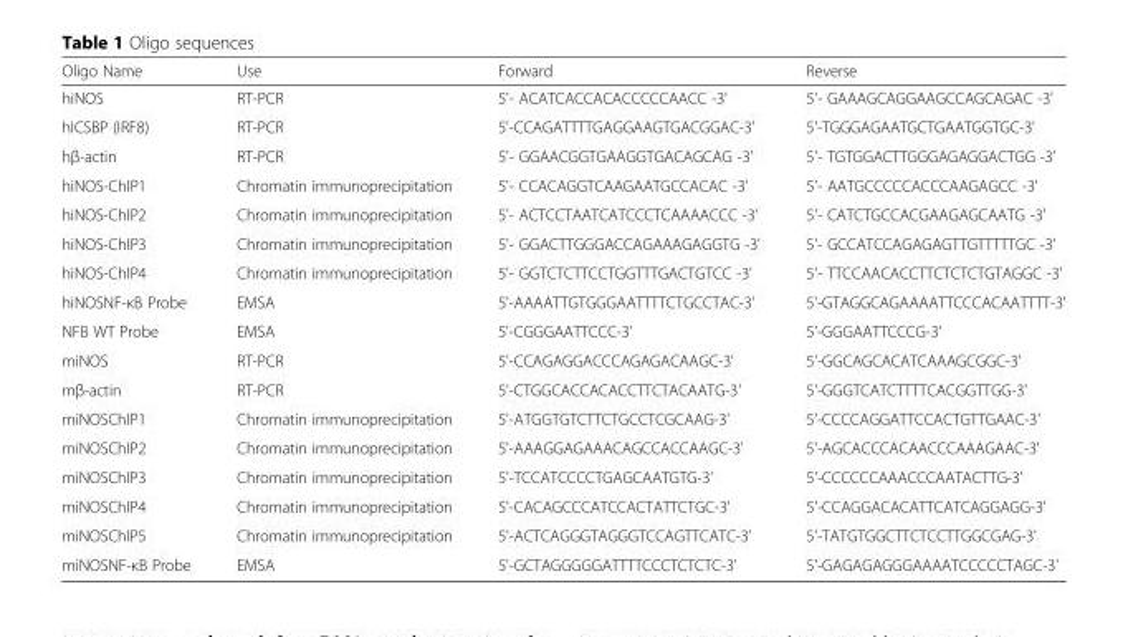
<table><thead><tr><td>Oligo Name</td><td>Use</td><td>Forward</td><td>Reverse</td></tr></thead><tbody><tr><td>hiNOS</td><td>RT-PCR</td><td>5&#x27;- ACATCACCACACCCCCAACC -3&#x27;</td><td>5&#x27;- GAAAGCAGGAAGCCAGCAGAC -3&#x27;</td></tr><tr><td>hICSBP (IRF8)</td><td>RT-PCR</td><td>5&#x27;-CCAGATTTTGAGGAAGTGACGGAC-3&#x27;</td><td>5&#x27;-TGGGAGAATGCTGAATGGTGC-3&#x27;</td></tr><tr><td>hβ-actin</td><td>RT-PCR</td><td>5&#x27;- GGAACGGTGAAGGTGACAGCAG -3&#x27;</td><td>5&#x27;- TGTGGACTTGGGAGAGGACTGG -3&#x27;</td></tr><tr><td>hiNOS-ChIP1</td><td>Chromatin immunoprecipitation</td><td>5&#x27;- CCACAGGTCAAGAATGCCACAC -3&#x27;</td><td>5&#x27;- AATGCCCCCACCCAAGAGCC -3&#x27;</td></tr><tr><td>hiNOS-ChIP2</td><td>Chromatin immunoprecipitation</td><td>5&#x27;- ACTCCTAATCATCCCTCAAAACCC -3&#x27;</td><td>5&#x27;- CATCTGCCACGAAGAGCAATG -3&#x27;</td></tr><tr><td>hiNOS-ChIP3</td><td>Chromatin immunoprecipitation</td><td>5&#x27;- GGACTTGGGACCAGAAAGAGGTG -3&#x27;</td><td>5&#x27;- GCCATCCAGAGAGTTGTTTTTGC -3&#x27;</td></tr><tr><td>hiNOS-ChIP4</td><td>Chromatin immunoprecipitation</td><td>5&#x27;- GGTCTCTTCCTGGTTTGACTGTCC -3&#x27;</td><td>5&#x27;- TTCCAACACCTTCTCTCTGTAGGC -3&#x27;</td></tr><tr><td>hiNOSNF-κB Probe</td><td>EMSA</td><td>5&#x27;-AAAATTGTGGGAATTTTCTGCCTAC-3&#x27;</td><td>5&#x27;-GTAGGCAGAAAATTCCCACAATTTT-3&#x27;</td></tr><tr><td>NFB WT Probe</td><td>EMSA</td><td>5&#x27;-CGGGAATTCCC-3&#x27;</td><td>5&#x27;-GGGAATTCCCG-3&#x27;</td></tr><tr><td>miNOS</td><td>RT-PCR</td><td>5&#x27;-CCAGAGGACCCAGAGACAAGC-3&#x27;</td><td>5&#x27;-GGCAGCACATCAAAGCGGC-3&#x27;</td></tr><tr><td>mβ-actin</td><td>RT-PCR</td><td>5&#x27;-CTGGCACCACACCTTCTACAATG-3&#x27;</td><td>5&#x27;-GGGTCATCTTTTCACGGTTGG-3&#x27;</td></tr><tr><td>miNOSChIP1</td><td>Chromatin immunoprecipitation</td><td>5&#x27;-ATGGTGTCTTCTGCCTCGCAAG-3&#x27;</td><td>5&#x27;-CCCCAGGATTCCACTGTTGAAC-3&#x27;</td></tr><tr><td>miNOSChIP2</td><td>Chromatin immunoprecipitation</td><td>5&#x27;-AAAGGAGAAACAGCCACCAAGC-3&#x27;</td><td>5&#x27;-AGCACCCACAACCCAAAGAAC-3&#x27;</td></tr><tr><td>miNOSChIP3</td><td>Chromatin immunoprecipitation</td><td>5&#x27;-TCCATCCCCTGAGCAATGTG-3&#x27;</td><td>5&#x27;-CCCCCCAAACCCAATACTTG-3&#x27;</td></tr><tr><td>miNOSChIP4</td><td>Chromatin immunoprecipitation</td><td>5&#x27;-CACAGCCCATCCACTATTCTGC-3&#x27;</td><td>5&#x27;-CCAGGACACATTCATCAGGAGG-3&#x27;</td></tr><tr><td>miNOSChIP5</td><td>Chromatin immunoprecipitation</td><td>5&#x27;-ACTCAGGGTAGGGTCCAGTTCATC-3&#x27;</td><td>5&#x27;-TATGTGGCTTCTCCTTGGCGAG-3&#x27;</td></tr><tr><td>miNOSNF-κB Probe</td><td>EMSA</td><td>5&#x27;-GCTAGGGGGATTTTCCCTCTCTC-3&#x27;</td><td>5&#x27;-GAGAGAGGGAAAATCCCCCTAGC-3&#x27;</td></tr></tbody></table>